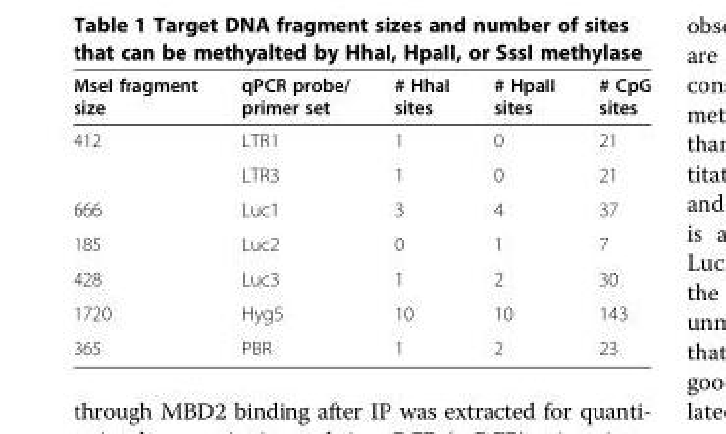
<table><thead><tr><td>MseI fragment size</td><td>qPCR probe/ primer set</td><td># HhaI sites</td><td># HpaII sites</td><td># CpG sites</td></tr></thead><tbody><tr><td rowspan="2">412</td><td>LTR1</td><td>1</td><td>0</td><td>21</td></tr><tr><td>LTR3</td><td>1</td><td>0</td><td>21</td></tr><tr><td>666</td><td>Luc1</td><td>3</td><td>4</td><td>37</td></tr><tr><td>185</td><td>Luc2</td><td>0</td><td>1</td><td>7</td></tr><tr><td>428</td><td>Luc3</td><td>1</td><td>2</td><td>30</td></tr><tr><td>1720</td><td>Hyg5</td><td>10</td><td>10</td><td>143</td></tr><tr><td>365</td><td>PBR</td><td>1</td><td>2</td><td>23</td></tr></tbody></table>